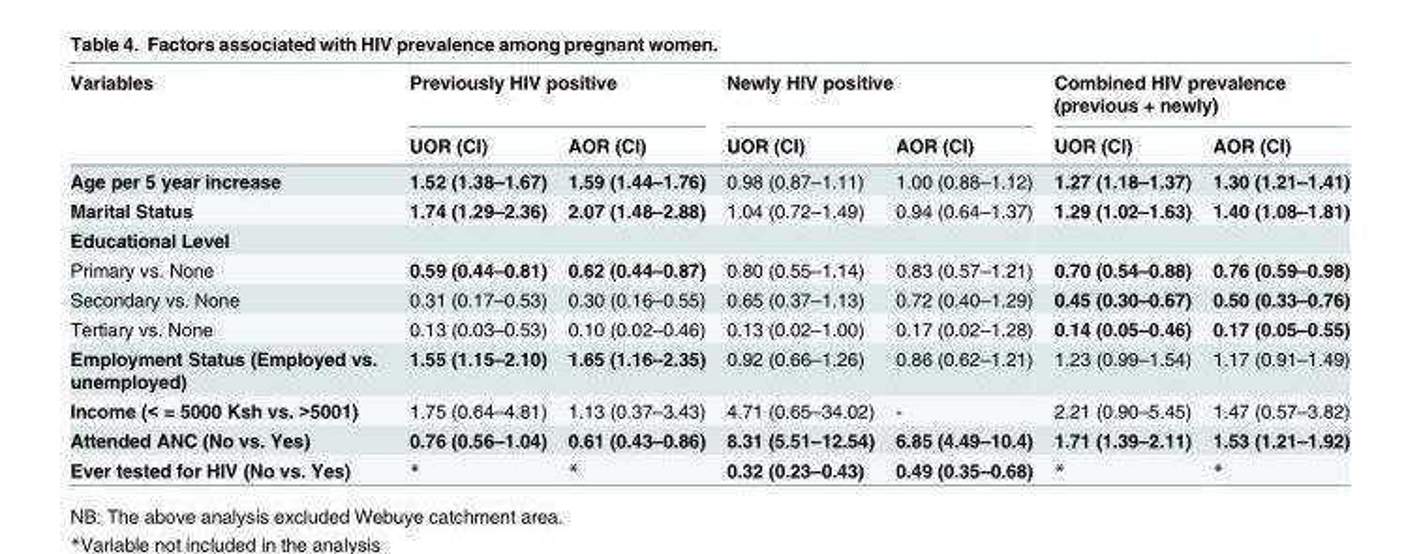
<table><thead><tr><td rowspan="2">Variables</td><td colspan="2">Previously HIV positive</td><td colspan="2">Newly HIV positive</td><td colspan="2">Combined HIV prevalence (previous + newly)</td></tr><tr><td>UOR (CI)</td><td>AOR (CI)</td><td>UOR (CI)</td><td>AOR (CI)</td><td>UOR (CI)</td><td>AOR (CI)</td></tr></thead><tbody><tr><td>Age per 5 year increase</td><td>1.52 (1.38–1.67)</td><td>1.59 (1.44–1.76)</td><td>0.98 (0.87–1.11)</td><td>1.00 (0.88–1.12)</td><td>1.27 (1.18–1.37)</td><td>1.30 (1.21–1.41)</td></tr><tr><td>Marital Status</td><td>1.74 (1.29–2.36)</td><td>2.07 (1.48–2.88)</td><td>1.04 (0.72–1.49)</td><td>0.94 (0.64–1.37)</td><td>1.29 (1.02–1.63)</td><td>1.40 (1.08–1.81)</td></tr><tr><td colspan="7">Educational Level</td></tr><tr><td>Primary vs. None</td><td>0.59 (0.44–0.81)</td><td>0.62 (0.44–0.87)</td><td>0.80 (0.55–1.14)</td><td>0.83 (0.57–1.21)</td><td>0.70 (0.54–0.88)</td><td>0.76 (0.59–0.98)</td></tr><tr><td>Secondary vs. None</td><td>0.31 (0.17–0.53)</td><td>0.30 (0.16–0.55)</td><td>0.65 (0.37–1.13)</td><td>0.72 (0.40–1.29)</td><td>0.45 (0.30–0.67)</td><td>0.50 (0.33–0.76)</td></tr><tr><td>Tertiary vs. None</td><td>0.13 (0.03–0.53)</td><td>0.10 (0.02–0.46)</td><td>0.13 (0.02–1.00)</td><td>0.17 (0.02–1.28)</td><td>0.14 (0.05–0.46)</td><td>0.17 (0.05–0.55)</td></tr><tr><td>Employment Status (Employed vs. unemployed)</td><td>1.55 (1.15–2.10)</td><td>1.65 (1.16–2.35)</td><td>0.92 (0.66–1.26)</td><td>0.86 (0.62–1.21)</td><td>1.23 (0.99–1.54)</td><td>1.17 (0.91–1.49)</td></tr><tr><td>Income (&lt; = 5000 Ksh vs. &gt;5001)</td><td>1.75 (0.64–4.81)</td><td>1.13 (0.37–3.43)</td><td>4.71 (0.65–34.02)</td><td>-</td><td>2.21 (0.90–5.45)</td><td>1.47 (0.57–3.82)</td></tr><tr><td>Attended ANC (No vs. Yes)</td><td>0.76 (0.56–1.04)</td><td>0.61 (0.43–0.86)</td><td>8.31 (5.51–12.54)</td><td>6.85 (4.49–10.4)</td><td>1.71 (1.39–2.11)</td><td>1.53 (1.21–1.92)</td></tr><tr><td>Ever tested for HIV (No vs. Yes)</td><td>*</td><td>*</td><td>0.32 (0.23–0.43)</td><td>0.49 (0.35–0.68)</td><td>*</td><td>*</td></tr></tbody></table>